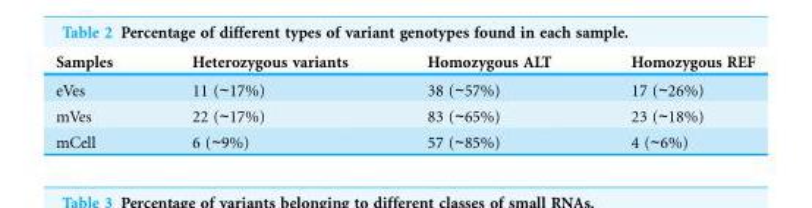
<table><thead><tr><td>Samples</td><td>Heterozygous variants</td><td>Homozygous ALT</td><td>Homozygous REF</td></tr></thead><tbody><tr><td>eVes</td><td>11 (∼17%)</td><td>38 (∼57%)</td><td>17 (∼26%)</td></tr><tr><td>mVes</td><td>22 (∼17%)</td><td>83 (∼65%)</td><td>23 (∼18%)</td></tr><tr><td>mCell</td><td>6 (∼9%)</td><td>57 (∼85%)</td><td>4 (∼6%)</td></tr></tbody></table>